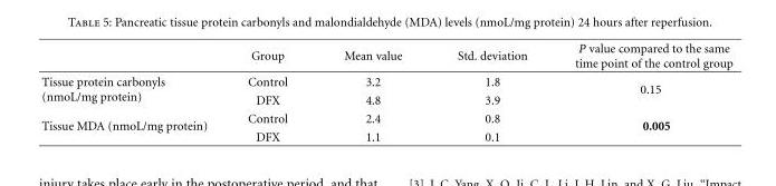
<table><thead><tr><td></td><td>Group</td><td>Mean value</td><td>Std. deviation</td><td>P value compared to the same time point of the control group</td></tr></thead><tbody><tr><td rowspan="2">Tissue protein carbonyls (nmoL/mg protein)</td><td>Control</td><td>3.2</td><td>1.8</td><td rowspan="2">0.15</td></tr><tr><td>DFX</td><td>4.8</td><td>3.9</td></tr><tr><td rowspan="2">Tissue MDA (nmoL/mg protein)</td><td>Control</td><td>2.4</td><td>0.8</td><td rowspan="2">0.005</td></tr><tr><td>DFX</td><td>1.1</td><td>0.1</td></tr></tbody></table>